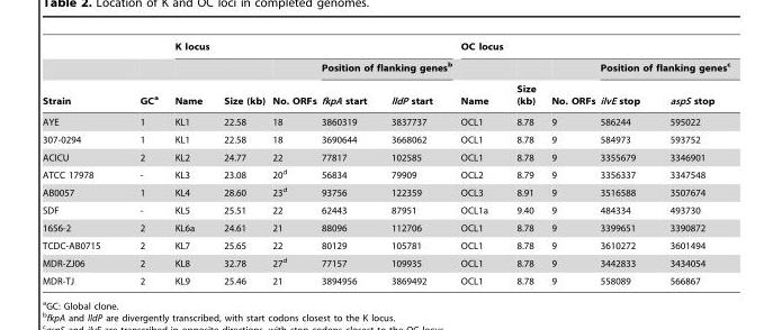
<table><thead><tr><td rowspan="3">Strain</td><td rowspan="3">GC<sup>a</sup></td><td colspan="5">K locus</td><td colspan="5">OC locus</td></tr><tr><td rowspan="2">Name</td><td rowspan="2">Size (kb)</td><td rowspan="2">No. ORFs</td><td colspan="2">Position of flanking genes<sup>b</sup></td><td rowspan="2">Name</td><td rowspan="2">Size (kb)</td><td rowspan="2">No. ORFs</td><td colspan="2">Position of flanking genes<sup>c</sup></td></tr><tr><td>fkpA start</td><td>lldP start</td><td>ilvE stop</td><td>aspS stop</td></tr></thead><tbody><tr><td>AYE</td><td>1</td><td>KL1</td><td>22.58</td><td>18</td><td>3860319</td><td>3837737</td><td>OCL1</td><td>8.78</td><td>9</td><td>586244</td><td>595022</td></tr><tr><td>307-0294</td><td>1</td><td>KL1</td><td>22.58</td><td>18</td><td>3690644</td><td>3668062</td><td>OCL1</td><td>8.78</td><td>9</td><td>584973</td><td>593752</td></tr><tr><td>ACICU</td><td>2</td><td>KL2</td><td>24.77</td><td>22</td><td>77817</td><td>102585</td><td>OCL1</td><td>8.78</td><td>9</td><td>3355679</td><td>3346901</td></tr><tr><td>ATCC 17978</td><td>-</td><td>KL3</td><td>23.08</td><td>20<sup>d</sup></td><td>56834</td><td>79909</td><td>OCL2</td><td>8.79</td><td>9</td><td>3356337</td><td>3347548</td></tr><tr><td>AB0057</td><td>1</td><td>KL4</td><td>28.60</td><td>23<sup>d</sup></td><td>93756</td><td>122359</td><td>OCL3</td><td>8.91</td><td>9</td><td>3516588</td><td>3507674</td></tr><tr><td>SDF</td><td>-</td><td>KL5</td><td>25.51</td><td>22</td><td>62443</td><td>87951</td><td>OCL1a</td><td>9.40</td><td>9</td><td>484334</td><td>493730</td></tr><tr><td>1656-2</td><td>2</td><td>KL6a</td><td>24.61</td><td>21</td><td>88096</td><td>112706</td><td>OCL1</td><td>8.78</td><td>9</td><td>3399651</td><td>3390872</td></tr><tr><td>TCDC-AB0715</td><td>2</td><td>KL7</td><td>25.65</td><td>22</td><td>80129</td><td>105781</td><td>OCL1</td><td>8.78</td><td>9</td><td>3610272</td><td>3601494</td></tr><tr><td>MDR-ZJ06</td><td>2</td><td>KL8</td><td>32.78</td><td>27<sup>d</sup></td><td>77157</td><td>109935</td><td>OCL1</td><td>8.78</td><td>9</td><td>3442833</td><td>3434054</td></tr><tr><td>MDR-TJ</td><td>2</td><td>KL9</td><td>25.46</td><td>21</td><td>3894956</td><td>3869492</td><td>OCL1</td><td>8.78</td><td>9</td><td>558089</td><td>566867</td></tr></tbody></table>